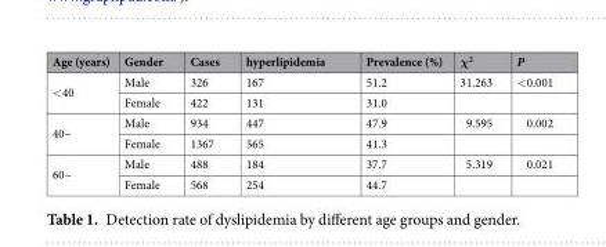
<table><thead><tr><td>Age (years)</td><td>Gender</td><td>Cases</td><td>hyperlipidemia</td><td>Prevalence (%)</td><td>χ<sup>2</sup></td><td>P</td></tr></thead><tbody><tr><td rowspan="2">&lt;40</td><td>Male</td><td>326</td><td>167</td><td>51.2</td><td>31.263</td><td>&lt;0.001</td></tr><tr><td>Female</td><td>422</td><td>131</td><td>31.0</td><td></td><td></td></tr><tr><td rowspan="2">40~</td><td>Male</td><td>934</td><td>447</td><td>47.9</td><td>9.595</td><td>0.002</td></tr><tr><td>Female</td><td>1367</td><td>565</td><td>41.3</td><td></td><td></td></tr><tr><td rowspan="2">60~</td><td>Male</td><td>488</td><td>184</td><td>37.7</td><td>5.319</td><td>0.021</td></tr><tr><td>Female</td><td>568</td><td>254</td><td>44.7</td><td></td><td></td></tr></tbody></table>